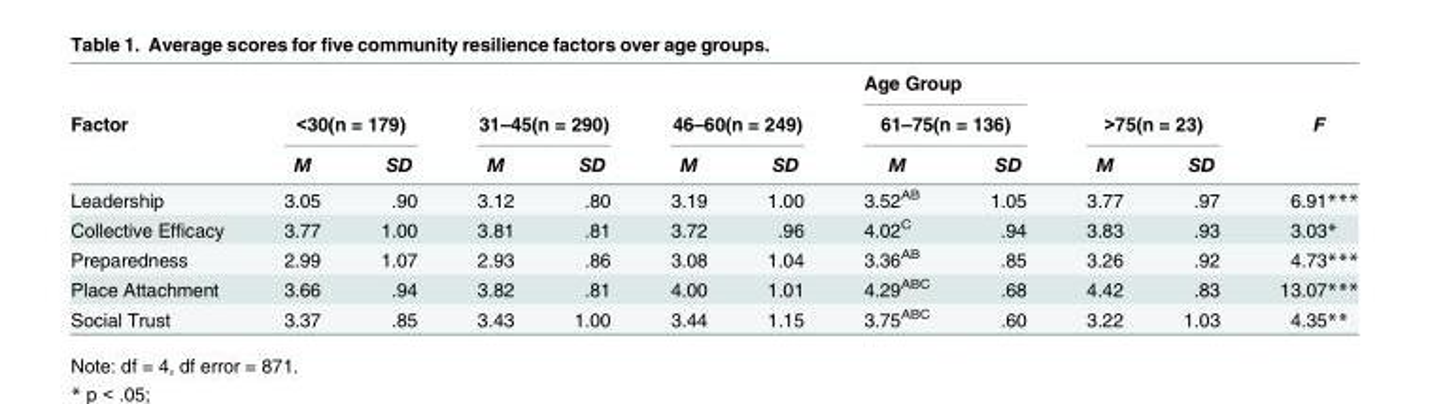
<table><thead><tr><td rowspan="3">Factor</td><td></td><td></td><td></td><td></td><td></td><td></td><td rowspan="2" colspan="2">Age Group 61–75(n = 136)</td><td></td><td></td><td rowspan="3">F</td></tr><tr><td colspan="2">&lt;30(n = 179)</td><td colspan="2">31–45(n = 290)</td><td colspan="2">46–60(n = 249)</td><td colspan="2">&gt;75(n = 23)</td></tr><tr><td>M</td><td>SD</td><td>M</td><td>SD</td><td>M</td><td>SD</td><td>M</td><td>SD</td><td>M</td><td>SD</td></tr></thead><tbody><tr><td>Leadership</td><td>3.05</td><td>.90</td><td>3.12</td><td>.80</td><td>3.19</td><td>1.00</td><td>3.52<sup>AB</sup></td><td>1.05</td><td>3.77</td><td>.97</td><td>6.91***</td></tr><tr><td>Collective Efficacy</td><td>3.77</td><td>1.00</td><td>3.81</td><td>.81</td><td>3.72</td><td>.96</td><td>4.02<sup>C</sup></td><td>.94</td><td>3.83</td><td>.93</td><td>3.03*</td></tr><tr><td>Preparedness</td><td>2.99</td><td>1.07</td><td>2.93</td><td>.86</td><td>3.08</td><td>1.04</td><td>3.36<sup>AB</sup></td><td>.85</td><td>3.26</td><td>.92</td><td>4.73***</td></tr><tr><td>Place Attachment</td><td>3.66</td><td>.94</td><td>3.82</td><td>.81</td><td>4.00</td><td>1.01</td><td>4.29<sup>ABC</sup></td><td>.68</td><td>4.42</td><td>.83</td><td>13.07***</td></tr><tr><td>Social Trust</td><td>3.37</td><td>.85</td><td>3.43</td><td>1.00</td><td>3.44</td><td>1.15</td><td>3.75<sup>ABC</sup></td><td>.60</td><td>3.22</td><td>1.03</td><td>4.35**</td></tr></tbody></table>